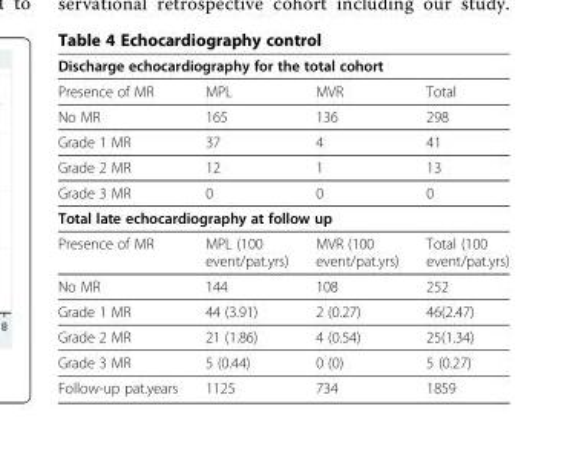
<table><thead><tr><td colspan="4">Discharge echocardiography for the total cohort</td></tr><tr><td>Presence of MR</td><td>MPL</td><td>MVR</td><td>Total</td></tr></thead><tbody><tr><td>No MR</td><td>165</td><td>136</td><td>298</td></tr><tr><td>Grade 1 MR</td><td>37</td><td>4</td><td>41</td></tr><tr><td>Grade 2 MR</td><td>12</td><td>1</td><td>13</td></tr><tr><td>Grade 3 MR</td><td>0</td><td>0</td><td>0</td></tr><tr><td colspan="4">Total late echocardiography at follow up</td></tr><tr><td>Presence of MR</td><td>MPL (100 event/pat.yrs)</td><td>MVR (100 event/pat.yrs)</td><td>Total (100 event/pat.yrs)</td></tr><tr><td>No MR</td><td>144</td><td>108</td><td>252</td></tr><tr><td>Grade 1 MR</td><td>44 (3.91)</td><td>2 (0.27)</td><td>46(2.47)</td></tr><tr><td>Grade 2 MR</td><td>21 (1.86)</td><td>4 (0.54)</td><td>25(1.34)</td></tr><tr><td>Grade 3 MR</td><td>5 (0.44)</td><td>0 (0)</td><td>5 (0.27)</td></tr><tr><td>Follow-up pat.years</td><td>1125</td><td>734</td><td>1859</td></tr></tbody></table>